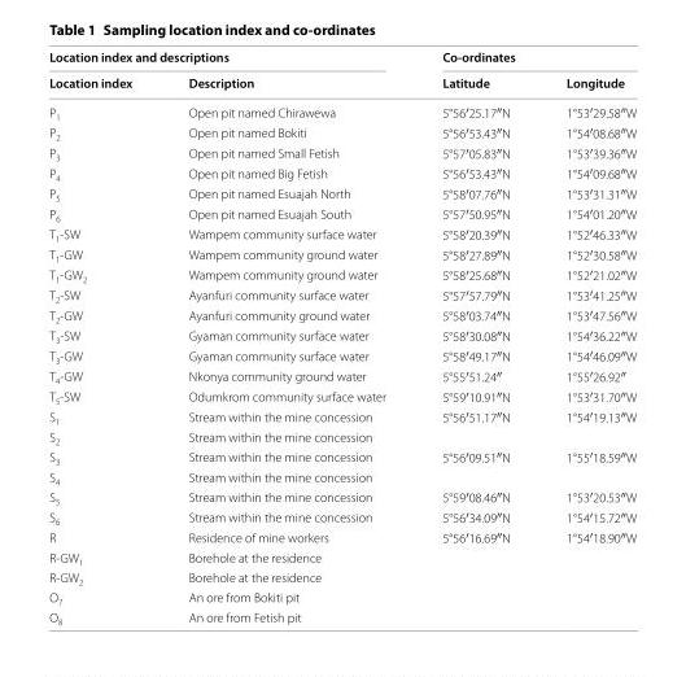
<table><thead><tr><td colspan="2">Location index and descriptions</td><td colspan="2">Co-ordinates</td></tr><tr><td>Location index</td><td>Description</td><td>Latitude</td><td>Longitude</td></tr></thead><tbody><tr><td>P<sub>1</sub></td><td>Open pit named Chirawewa</td><td>5°56′25.17″N</td><td>1°53′29.58″W</td></tr><tr><td>P<sub>2</sub></td><td>Open pit named Bokiti</td><td>5°56′53.43″N</td><td>1°54′08.68″W</td></tr><tr><td>P<sub>3</sub></td><td>Open pit named Small Fetish</td><td>5°57′05.83″N</td><td>1°53′39.36″W</td></tr><tr><td>P<sub>4</sub></td><td>Open pit named Big Fetish</td><td>5°56′53.43″N</td><td>1°54′09.68″W</td></tr><tr><td>P<sub>5</sub></td><td>Open pit named Esuajah North</td><td>5°58′07.76″N</td><td>1°53′31.31″W</td></tr><tr><td>P<sub>6</sub></td><td>Open pit named Esuajah South</td><td>5°57′50.95″N</td><td>1°54′01.20″W</td></tr><tr><td>T<sub>1</sub>‑SW</td><td>Wampem community surface water</td><td>5°58′20.39″N</td><td>1°52′46.33″W</td></tr><tr><td>T<sub>1</sub>‑GW</td><td>Wampem community ground water</td><td>5°58′27.89″N</td><td>1°52′30.58″W</td></tr><tr><td>T<sub>1</sub>‑GW<sub>2</sub></td><td>Wampem community ground water</td><td>5°58′25.68″N</td><td>1°52′21.02″W</td></tr><tr><td>T<sub>2</sub>‑SW</td><td>Ayanfuri community surface water</td><td>5°57′57.79″N</td><td>1°53′41.25″W</td></tr><tr><td>T<sub>2</sub>‑GW</td><td>Ayanfuri community ground water</td><td>5°58′03.74″N</td><td>1°53′47.56″W</td></tr><tr><td>T<sub>3</sub>‑SW</td><td>Gyaman community surface water</td><td>5°58′30.08″N</td><td>1°54′36.22″W</td></tr><tr><td>T<sub>3</sub>‑GW</td><td>Gyaman community surface water</td><td>5°58′49.17″N</td><td>1°54′46.09″W</td></tr><tr><td>T<sub>4</sub>‑GW</td><td>Nkonya community ground water</td><td>5°55′51.24″</td><td>1°55′26.92″</td></tr><tr><td>T<sub>5</sub>‑SW</td><td>Odumkrom community surface water</td><td>5°59′10.91″N</td><td>1°53′31.70″W</td></tr><tr><td>S<sub>1</sub></td><td>Stream within the mine concession</td><td>5°56′51.17″N</td><td>1°54′19.13″W</td></tr><tr><td>S<sub>2</sub></td><td>Stream within the mine concession</td><td></td><td></td></tr><tr><td>S<sub>3</sub></td><td>Stream within the mine concession</td><td>5°56′09.51″N</td><td>1°55′18.59″W</td></tr><tr><td>S<sub>4</sub></td><td>Stream within the mine concession</td><td></td><td></td></tr><tr><td>S<sub>5</sub></td><td>Stream within the mine concession</td><td>5°59′08.46″N</td><td>1°53′20.53″W</td></tr><tr><td>S<sub>6</sub></td><td>Stream within the mine concession</td><td>5°56′34.09″N</td><td>1°54′15.72″W</td></tr><tr><td>R</td><td>Residence of mine workers</td><td>5°56′16.69″N</td><td>1°54′18.90″W</td></tr><tr><td>R‑GW<sub>1</sub></td><td>Borehole at the residence</td><td></td><td></td></tr><tr><td>R‑GW<sub>2</sub></td><td>Borehole at the residence</td><td></td><td></td></tr><tr><td>O<sub>7</sub></td><td>An ore from Bokiti pit</td><td></td><td></td></tr><tr><td>O<sub>8</sub></td><td>An ore from Fetish pit</td><td></td><td></td></tr></tbody></table>